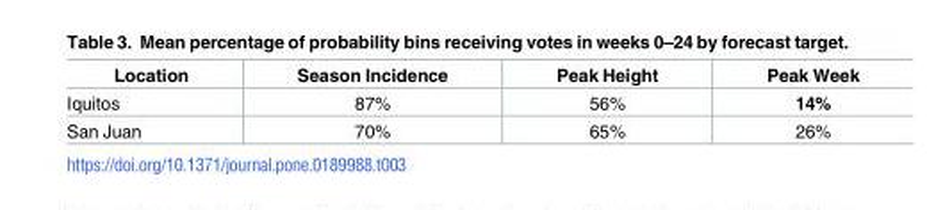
<table><thead><tr><td>Location</td><td>Season Incidence</td><td>Peak Height</td><td>Peak Week</td></tr></thead><tbody><tr><td>Iquitos</td><td>87%</td><td>56%</td><td>14%</td></tr><tr><td>San Juan</td><td>70%</td><td>65%</td><td>26%</td></tr></tbody></table>